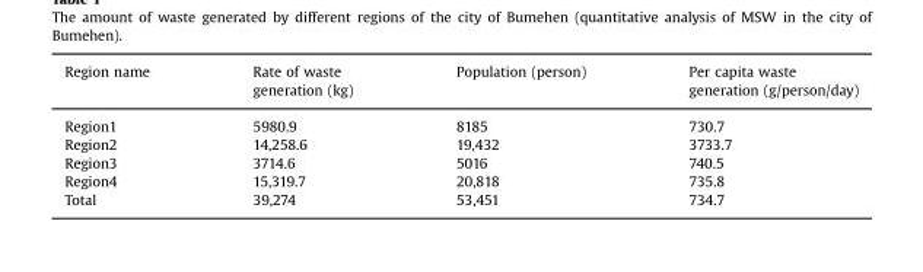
<table><thead><tr><td>Region name</td><td>Rate of waste generation (kg)</td><td>Population (person)</td><td>Per capita waste generation (g/person/day)</td></tr></thead><tbody><tr><td>Region1</td><td>5980.9</td><td>8185</td><td>730.7</td></tr><tr><td>Region2</td><td>14,258.6</td><td>19,432</td><td>3733.7</td></tr><tr><td>Region3</td><td>3714.6</td><td>5016</td><td>740.5</td></tr><tr><td>Region4</td><td>15,319.7</td><td>20,818</td><td>735.8</td></tr><tr><td>Total</td><td>39,274</td><td>53,451</td><td>734.7</td></tr></tbody></table>